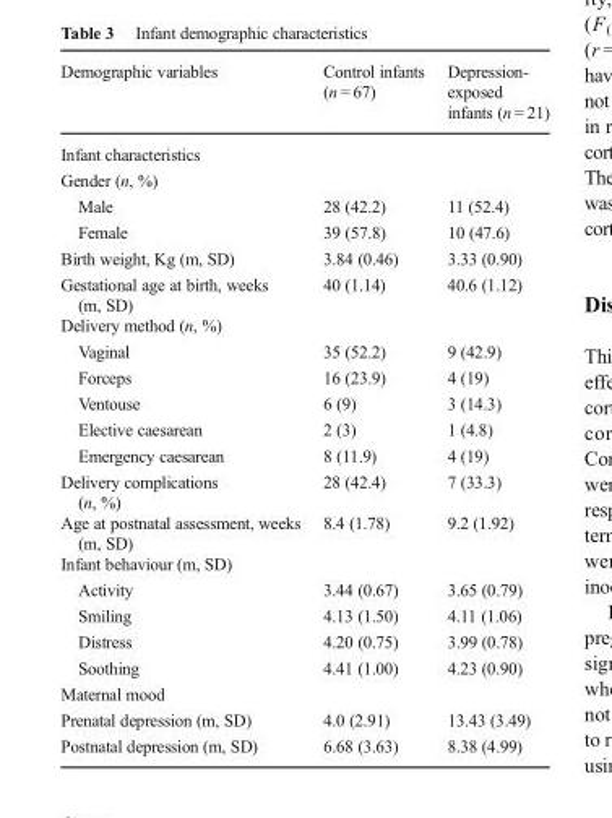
<table><thead><tr><td>Demographic variables</td><td>Control infants (n = 67)</td><td>Depression- exposed infants (n = 21)</td></tr></thead><tbody><tr><td colspan="3">Infant characteristics</td></tr><tr><td colspan="3">Gender (n, %)</td></tr><tr><td>Male</td><td>28 (42.2)</td><td>11 (52.4)</td></tr><tr><td>Female</td><td>39 (57.8)</td><td>10 (47.6)</td></tr><tr><td>Birth weight, Kg (m, SD)</td><td>3.84 (0.46)</td><td>3.33 (0.90)</td></tr><tr><td>Gestational age at birth, weeks (m, SD)</td><td>40 (1.14)</td><td>40.6 (1.12)</td></tr><tr><td colspan="3">Delivery method (n, %)</td></tr><tr><td>Vaginal</td><td>35 (52.2)</td><td>9 (42.9)</td></tr><tr><td>Forceps</td><td>16 (23.9)</td><td>4 (19)</td></tr><tr><td>Ventouse</td><td>6 (9)</td><td>3 (14.3)</td></tr><tr><td>Elective caesarean</td><td>2 (3)</td><td>1 (4.8)</td></tr><tr><td>Emergency caesarean</td><td>8 (11.9)</td><td>4 (19)</td></tr><tr><td>Delivery complications (n, %)</td><td>28 (42.4)</td><td>7 (33.3)</td></tr><tr><td>Age at postnatal assessment, weeks (m, SD)</td><td>8.4 (1.78)</td><td>9.2 (1.92)</td></tr><tr><td colspan="3">Infant behaviour (m, SD)</td></tr><tr><td>Activity</td><td>3.44 (0.67)</td><td>3.65 (0.79)</td></tr><tr><td>Smiling</td><td>4.13 (1.50)</td><td>4.11 (1.06)</td></tr><tr><td>Distress</td><td>4.20 (0.75)</td><td>3.99 (0.78)</td></tr><tr><td>Soothing</td><td>4.41 (1.00)</td><td>4.23 (0.90)</td></tr><tr><td colspan="3">Maternal mood</td></tr><tr><td>Prenatal depression (m, SD)</td><td>4.0 (2.91)</td><td>13.43 (3.49)</td></tr><tr><td>Postnatal depression (m, SD)</td><td>6.68 (3.63)</td><td>8.38 (4.99)</td></tr></tbody></table>